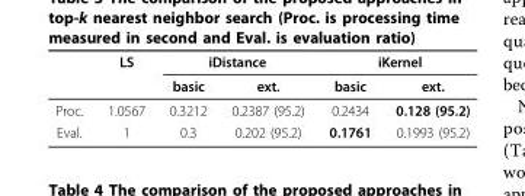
<table><thead><tr><td rowspan="2"></td><td rowspan="2">LS</td><td colspan="2">iDistance</td><td colspan="2">iKernel</td></tr><tr><td>basic</td><td>ext.</td><td>basic</td><td>ext.</td></tr></thead><tbody><tr><td>Proc.</td><td>1.0567</td><td>0.3212</td><td>0.2387 (95.2)</td><td>0.2434</td><td>0.128 (95.2)</td></tr><tr><td>Eval.</td><td>1</td><td>0.3</td><td>0.202 (95.2)</td><td>0.1761</td><td>0.1993 (95.2)</td></tr></tbody></table>